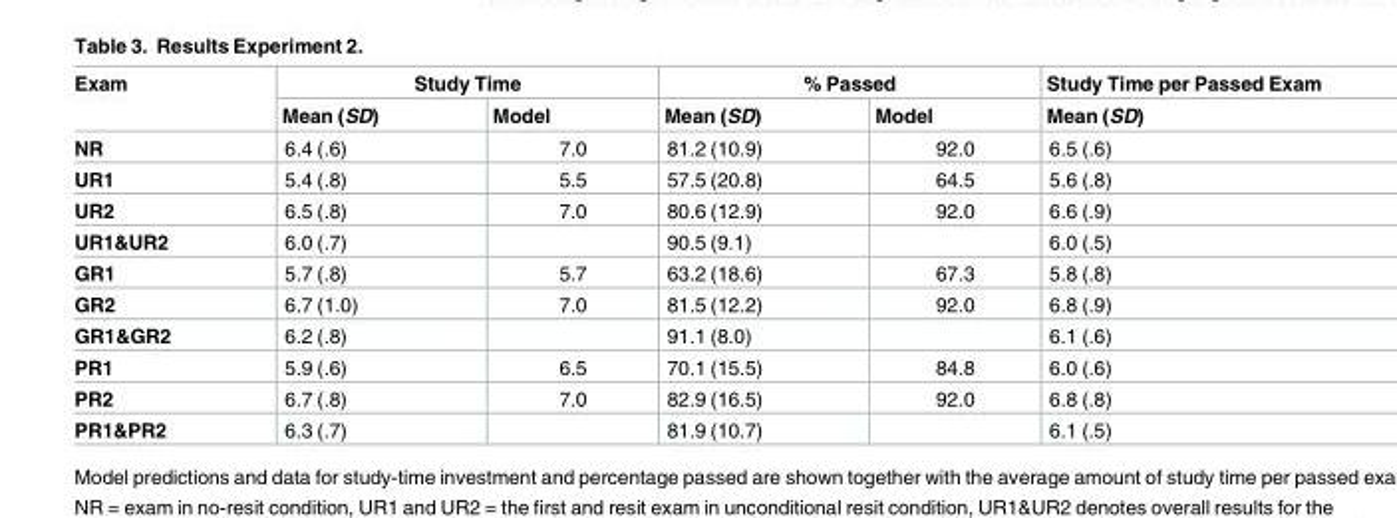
<table><thead><tr><td rowspan="2">Exam</td><td colspan="2">Study Time</td><td colspan="2">% Passed</td><td rowspan="2">Study Time per Passed Exam Mean (SD)</td></tr><tr><td>Mean (SD)</td><td>Model</td><td>Mean (SD)</td><td>Model</td></tr></thead><tbody><tr><td>NR</td><td>6.4 (.6)</td><td>7.0</td><td>81.2 (10.9)</td><td>92.0</td><td>6.5 (.6)</td></tr><tr><td>UR1</td><td>5.4 (.8)</td><td>5.5</td><td>57.5 (20.8)</td><td>64.5</td><td>5.6 (.8)</td></tr><tr><td>UR2</td><td>6.5 (.8)</td><td>7.0</td><td>80.6 (12.9)</td><td>92.0</td><td>6.6 (.9)</td></tr><tr><td>UR1&amp;UR2</td><td>6.0 (.7)</td><td></td><td>90.5 (9.1)</td><td></td><td>6.0 (.5)</td></tr><tr><td>GR1</td><td>5.7 (.8)</td><td>5.7</td><td>63.2 (18.6)</td><td>67.3</td><td>5.8 (.8)</td></tr><tr><td>GR2</td><td>6.7 (1.0)</td><td>7.0</td><td>81.5 (12.2)</td><td>92.0</td><td>6.8 (.9)</td></tr><tr><td>GR1&amp;GR2</td><td>6.2 (.8)</td><td></td><td>91.1 (8.0)</td><td></td><td>6.1 (.6)</td></tr><tr><td>PR1</td><td>5.9 (.6)</td><td>6.5</td><td>70.1 (15.5)</td><td>84.8</td><td>6.0 (.6)</td></tr><tr><td>PR2</td><td>6.7 (.8)</td><td>7.0</td><td>82.9 (16.5)</td><td>92.0</td><td>6.8 (.8)</td></tr><tr><td>PR1&amp;PR2</td><td>6.3 (.7)</td><td></td><td>81.9 (10.7)</td><td></td><td>6.1 (.5)</td></tr></tbody></table>